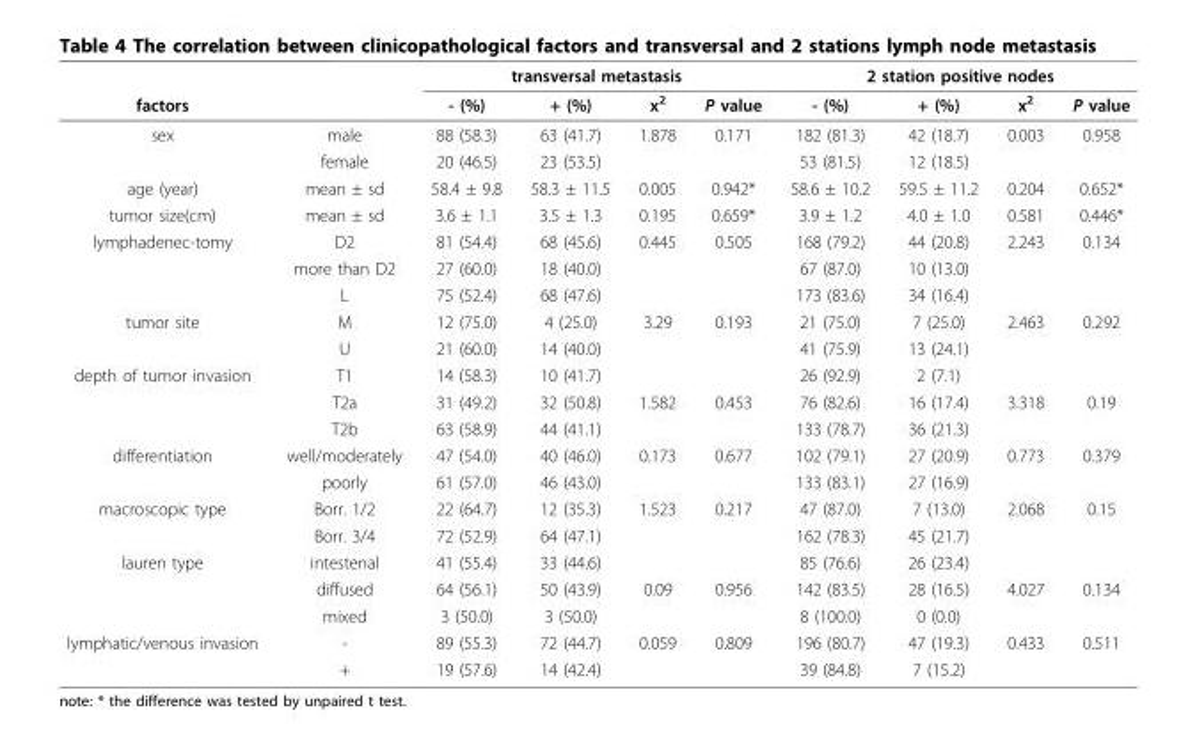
<table><thead><tr><td rowspan="2">factors</td><td rowspan="2"></td><td colspan="4">transversal metastasis</td><td colspan="4">2 station positive nodes</td></tr><tr><td>- (%)</td><td>+ (%)</td><td>x<sup>2</sup></td><td>P value</td><td>- (%)</td><td>+ (%)</td><td>x<sup>2</sup></td><td>P value</td></tr></thead><tbody><tr><td rowspan="2">sex</td><td>male</td><td>88 (58.3)</td><td>63 (41.7)</td><td>1.878</td><td>0.171</td><td>182 (81.3)</td><td>42 (18.7)</td><td>0.003</td><td>0.958</td></tr><tr><td>female</td><td>20 (46.5)</td><td>23 (53.5)</td><td></td><td></td><td>53 (81.5)</td><td>12 (18.5)</td><td></td><td></td></tr><tr><td>age (year)</td><td>mean ± sd</td><td>58.4 ± 9.8</td><td>58.3 ± 11.5</td><td>0.005</td><td>0.942*</td><td>58.6 ± 10.2</td><td>59.5 ± 11.2</td><td>0.204</td><td>0.652*</td></tr><tr><td>tumor size(cm)</td><td>mean ± sd</td><td>3.6 ± 1.1</td><td>3.5 ± 1.3</td><td>0.195</td><td>0.659*</td><td>3.9 ± 1.2</td><td>4.0 ± 1.0</td><td>0.581</td><td>0.446*</td></tr><tr><td rowspan="3">lymphadenec-tomy</td><td>D2</td><td>81 (54.4)</td><td>68 (45.6)</td><td>0.445</td><td>0.505</td><td>168 (79.2)</td><td>44 (20.8)</td><td>2.243</td><td>0.134</td></tr><tr><td>more than D2</td><td>27 (60.0)</td><td>18 (40.0)</td><td></td><td></td><td>67 (87.0)</td><td>10 (13.0)</td><td></td><td></td></tr><tr><td>L</td><td>75 (52.4)</td><td>68 (47.6)</td><td></td><td></td><td>173 (83.6)</td><td>34 (16.4)</td><td></td><td></td></tr><tr><td rowspan="2">tumor site</td><td>M</td><td>12 (75.0)</td><td>4 (25.0)</td><td>3.29</td><td>0.193</td><td>21 (75.0)</td><td>7 (25.0)</td><td>2.463</td><td>0.292</td></tr><tr><td>U</td><td>21 (60.0)</td><td>14 (40.0)</td><td></td><td></td><td>41 (75.9)</td><td>13 (24.1)</td><td></td><td></td></tr><tr><td rowspan="3">depth of tumor invasion</td><td>T1</td><td>14 (58.3)</td><td>10 (41.7)</td><td></td><td></td><td>26 (92.9)</td><td>2 (7.1)</td><td></td><td></td></tr><tr><td>T2a</td><td>31 (49.2)</td><td>32 (50.8)</td><td>1.582</td><td>0.453</td><td>76 (82.6)</td><td>16 (17.4)</td><td>3.318</td><td>0.19</td></tr><tr><td>T2b</td><td>63 (58.9)</td><td>44 (41.1)</td><td></td><td></td><td>133 (78.7)</td><td>36 (21.3)</td><td></td><td></td></tr><tr><td rowspan="2">differentiation</td><td>well/moderately</td><td>47 (54.0)</td><td>40 (46.0)</td><td>0.173</td><td>0.677</td><td>102 (79.1)</td><td>27 (20.9)</td><td>0.773</td><td>0.379</td></tr><tr><td>poorly</td><td>61 (57.0)</td><td>46 (43.0)</td><td></td><td></td><td>133 (83.1)</td><td>27 (16.9)</td><td></td><td></td></tr><tr><td rowspan="2">macroscopic type</td><td>Borr. 1/2</td><td>22 (64.7)</td><td>12 (35.3)</td><td>1.523</td><td>0.217</td><td>47 (87.0)</td><td>7 (13.0)</td><td>2.068</td><td>0.15</td></tr><tr><td>Borr. 3/4</td><td>72 (52.9)</td><td>64 (47.1)</td><td></td><td></td><td>162 (78.3)</td><td>45 (21.7)</td><td></td><td></td></tr><tr><td rowspan="3">lauren type</td><td>intestenal</td><td>41 (55.4)</td><td>33 (44.6)</td><td></td><td></td><td>85 (76.6)</td><td>26 (23.4)</td><td></td><td></td></tr><tr><td>diffused</td><td>64 (56.1)</td><td>50 (43.9)</td><td>0.09</td><td>0.956</td><td>142 (83.5)</td><td>28 (16.5)</td><td>4.027</td><td>0.134</td></tr><tr><td>mixed</td><td>3 (50.0)</td><td>3 (50.0)</td><td></td><td></td><td>8 (100.0)</td><td>0 (0.0)</td><td></td><td></td></tr><tr><td rowspan="2">lymphatic/venous invasion</td><td>-</td><td>89 (55.3)</td><td>72 (44.7)</td><td>0.059</td><td>0.809</td><td>196 (80.7)</td><td>47 (19.3)</td><td>0.433</td><td>0.511</td></tr><tr><td>+</td><td>19 (57.6)</td><td>14 (42.4)</td><td></td><td></td><td>39 (84.8)</td><td>7 (15.2)</td><td></td><td></td></tr></tbody></table>